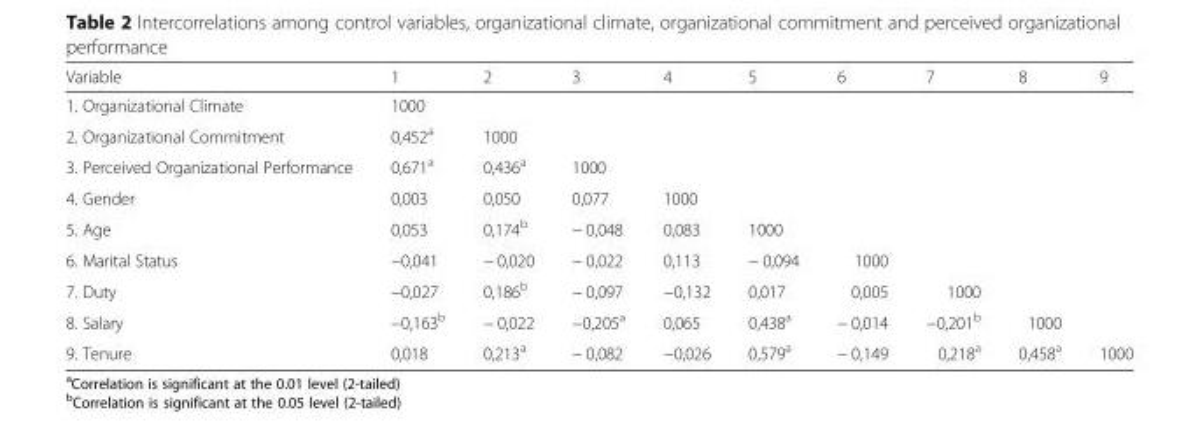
<table><thead><tr><td>Variable</td><td>1</td><td>2</td><td>3</td><td>4</td><td>5</td><td>6</td><td>7</td><td>8</td><td>9</td></tr></thead><tbody><tr><td>1. Organizational Climate</td><td>1000</td><td></td><td></td><td></td><td></td><td></td><td></td><td></td><td></td></tr><tr><td>2. Organizational Commitment</td><td>0,452<sup>a</sup></td><td>1000</td><td></td><td></td><td></td><td></td><td></td><td></td><td></td></tr><tr><td>3. Perceived Organizational Performance</td><td>0,671<sup>a</sup></td><td>0,436<sup>a</sup></td><td>1000</td><td></td><td></td><td></td><td></td><td></td><td></td></tr><tr><td>4. Gender</td><td>0,003</td><td>0,050</td><td>0,077</td><td>1000</td><td></td><td></td><td></td><td></td><td></td></tr><tr><td>5. Age</td><td>0,053</td><td>0,174<sup>b</sup></td><td>− 0,048</td><td>0,083</td><td>1000</td><td></td><td></td><td></td><td></td></tr><tr><td>6. Marital Status</td><td>−0,041</td><td>− 0,020</td><td>− 0,022</td><td>0,113</td><td>− 0,094</td><td>1000</td><td></td><td></td><td></td></tr><tr><td>7. Duty</td><td>−0,027</td><td>0,186<sup>b</sup></td><td>− 0,097</td><td>−0,132</td><td>0,017</td><td>0,005</td><td>1000</td><td></td><td></td></tr><tr><td>8. Salary</td><td>−0,163<sup>b</sup></td><td>− 0,022</td><td>−0,205<sup>a</sup></td><td>0,065</td><td>0,438<sup>a</sup></td><td>− 0,014</td><td>−0,201<sup>b</sup></td><td>1000</td><td></td></tr><tr><td>9. Tenure</td><td>0,018</td><td>0,213<sup>a</sup></td><td>− 0,082</td><td>−0,026</td><td>0,579<sup>a</sup></td><td>− 0,149</td><td>0,218<sup>a</sup></td><td>0,458<sup>a</sup></td><td>1000</td></tr></tbody></table>